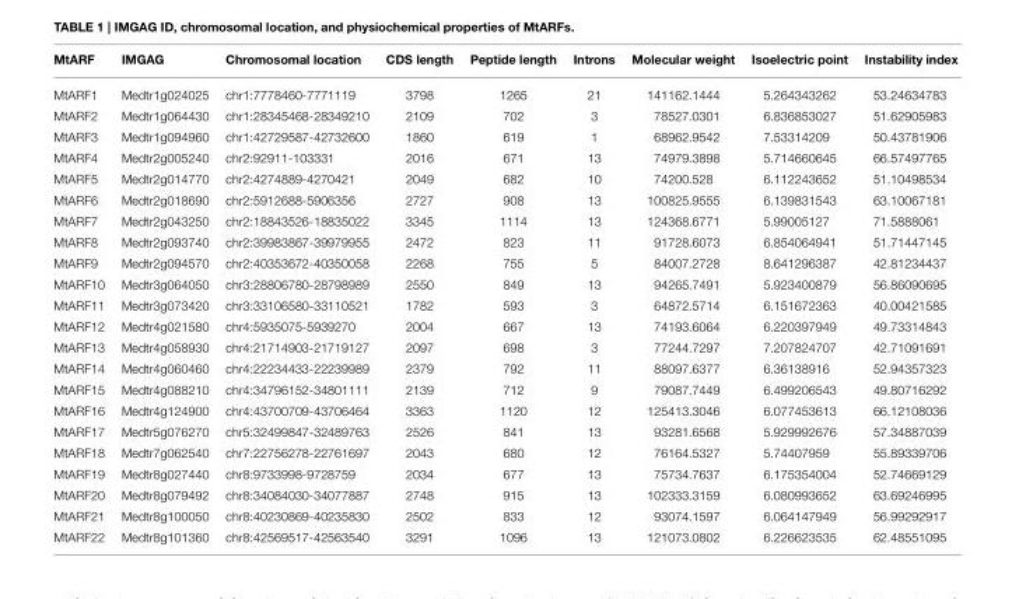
<table><thead><tr><td>MtARF</td><td>IMGAG</td><td>Chromosomal location</td><td>CDS length</td><td>Peptide length</td><td>Introns</td><td>Molecular weight</td><td>Isoelectric point</td><td>Instability index</td></tr></thead><tbody><tr><td>MtARF1</td><td>Medtr1g024025</td><td>chr1:7778460-7771119</td><td>3798</td><td>1265</td><td>21</td><td>141162.1444</td><td>5.264343262</td><td>53.24634783</td></tr><tr><td>MtARF2</td><td>Medtr1g064430</td><td>chr1:28345468-28349210</td><td>2109</td><td>702</td><td>3</td><td>78527.0301</td><td>6.836853027</td><td>51.62905983</td></tr><tr><td>MtARF3</td><td>Medtr1g094960</td><td>chr1:42729587-42732600</td><td>1860</td><td>619</td><td>1</td><td>68962.9542</td><td>7.53314209</td><td>50.43781906</td></tr><tr><td>MtARF4</td><td>Medtr2g005240</td><td>chr2:92911-103331</td><td>2016</td><td>671</td><td>13</td><td>74979.3898</td><td>5.714660645</td><td>66.57497765</td></tr><tr><td>MtARF5</td><td>Medtr2g014770</td><td>chr2:4274889-4270421</td><td>2049</td><td>682</td><td>10</td><td>74200.528</td><td>6.112243652</td><td>51.10498534</td></tr><tr><td>MtARF6</td><td>Medtr2g018690</td><td>chr2:5912688-5906356</td><td>2727</td><td>908</td><td>13</td><td>100825.9555</td><td>6.139831543</td><td>63.10067181</td></tr><tr><td>MtARF7</td><td>Medtr2g043250</td><td>chr2:18843526-18835022</td><td>3345</td><td>1114</td><td>13</td><td>124368.6771</td><td>5.99005127</td><td>71.5888061</td></tr><tr><td>MtARF8</td><td>Medtr2g093740</td><td>chr2:39983867-39979955</td><td>2472</td><td>823</td><td>11</td><td>91728.6073</td><td>6.854064941</td><td>51.71447145</td></tr><tr><td>MtARF9</td><td>Medtr2g094570</td><td>chr2:40353672-40350058</td><td>2268</td><td>755</td><td>5</td><td>84007.2728</td><td>8.641296387</td><td>42.81234437</td></tr><tr><td>MtARF10</td><td>Medtr3g064050</td><td>chr3:28806780-28798989</td><td>2550</td><td>849</td><td>13</td><td>94265.7491</td><td>5.923400879</td><td>56.86090695</td></tr><tr><td>MtARF11</td><td>Medtr3g073420</td><td>chr3:33106580-33110521</td><td>1782</td><td>593</td><td>3</td><td>64872.5714</td><td>6.151672363</td><td>40.00421585</td></tr><tr><td>MtARF12</td><td>Medtr4g021580</td><td>chr4:5935075-5939270</td><td>2004</td><td>667</td><td>13</td><td>74193.6064</td><td>6.220397949</td><td>49.73314843</td></tr><tr><td>MtARF13</td><td>Medtr4g058930</td><td>chr4:21714903-21719127</td><td>2097</td><td>698</td><td>3</td><td>77244.7297</td><td>7.207824707</td><td>42.71091691</td></tr><tr><td>MtARF14</td><td>Medtr4g060460</td><td>chr4:22234433-22239989</td><td>2379</td><td>792</td><td>11</td><td>88097.6377</td><td>6.36138916</td><td>52.94357323</td></tr><tr><td>MtARF15</td><td>Medtr4g088210</td><td>chr4:34796152-34801111</td><td>2139</td><td>712</td><td>9</td><td>79087.7449</td><td>6.499206543</td><td>49.80716292</td></tr><tr><td>MtARF16</td><td>Medtr4g124900</td><td>chr4:43700709-43706464</td><td>3363</td><td>1120</td><td>12</td><td>125413.3046</td><td>6.077453613</td><td>66.12108036</td></tr><tr><td>MtARF17</td><td>Medtr5g076270</td><td>chr5:32499847-32489763</td><td>2526</td><td>841</td><td>13</td><td>93281.6568</td><td>5.929992676</td><td>57.34887039</td></tr><tr><td>MtARF18</td><td>Medtr7g062540</td><td>chr7:22756278-22761697</td><td>2043</td><td>680</td><td>12</td><td>76164.5327</td><td>5.74407959</td><td>55.89339706</td></tr><tr><td>MtARF19</td><td>Medtr8g027440</td><td>chr8:9733998-9728759</td><td>2034</td><td>677</td><td>13</td><td>75734.7637</td><td>6.175354004</td><td>52.74669129</td></tr><tr><td>MtARF20</td><td>Medtr8g079492</td><td>chr8:34084030-34077887</td><td>2748</td><td>915</td><td>13</td><td>102333.3159</td><td>6.080993652</td><td>63.69246995</td></tr><tr><td>MtARF21</td><td>Medtr8g100050</td><td>chr8:40230869-40235830</td><td>2502</td><td>833</td><td>12</td><td>93074.1597</td><td>6.064147949</td><td>56.99292917</td></tr><tr><td>MtARF22</td><td>Medtr8g101360</td><td>chr8:42569517-42563540</td><td>3291</td><td>1096</td><td>13</td><td>121073.0802</td><td>6.226623535</td><td>62.48551095</td></tr></tbody></table>